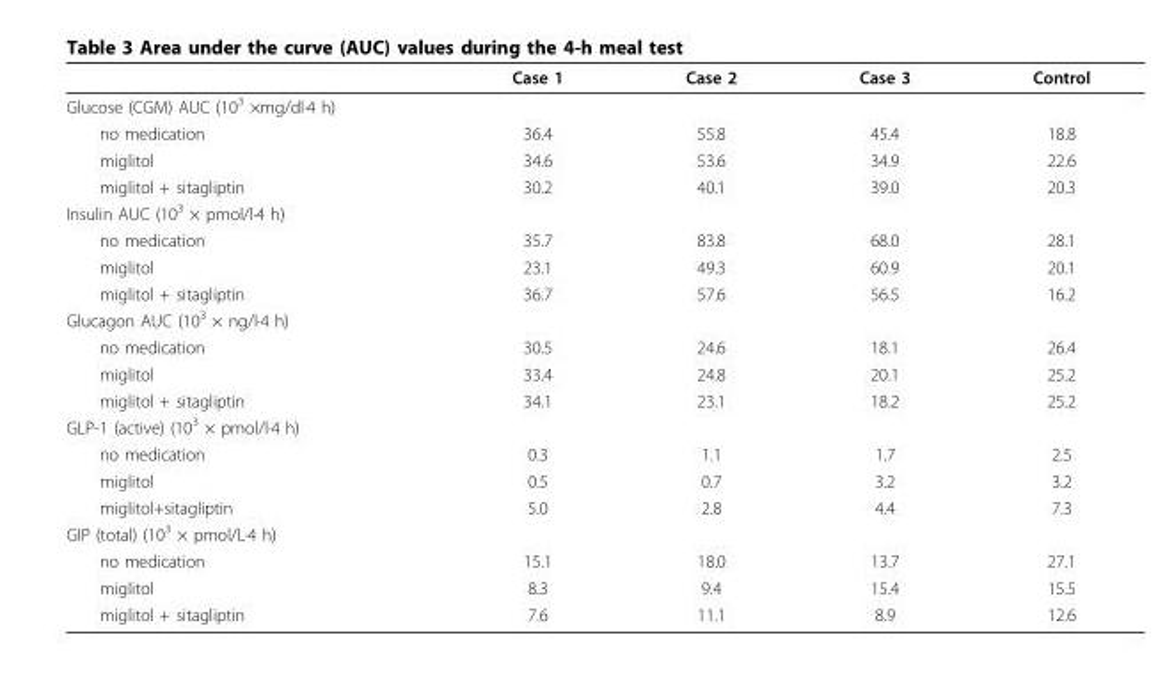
<table><thead><tr><td></td><td>Case 1</td><td>Case 2</td><td>Case 3</td><td>Control</td></tr></thead><tbody><tr><td colspan="5">Glucose (CGM) AUC (10<sup>3</sup> ×mg/dl·4 h)</td></tr><tr><td>no medication</td><td>36.4</td><td>55.8</td><td>45.4</td><td>18.8</td></tr><tr><td>miglitol</td><td>34.6</td><td>53.6</td><td>34.9</td><td>22.6</td></tr><tr><td>miglitol + sitagliptin</td><td>30.2</td><td>40.1</td><td>39.0</td><td>20.3</td></tr><tr><td colspan="5">Insulin AUC (10<sup>3</sup> × pmol/l·4 h)</td></tr><tr><td>no medication</td><td>35.7</td><td>83.8</td><td>68.0</td><td>28.1</td></tr><tr><td>miglitol</td><td>23.1</td><td>49.3</td><td>60.9</td><td>20.1</td></tr><tr><td>miglitol + sitagliptin</td><td>36.7</td><td>57.6</td><td>56.5</td><td>16.2</td></tr><tr><td colspan="5">Glucagon AUC (10<sup>3</sup> × ng/l·4 h)</td></tr><tr><td>no medication</td><td>30.5</td><td>24.6</td><td>18.1</td><td>26.4</td></tr><tr><td>miglitol</td><td>33.4</td><td>24.8</td><td>20.1</td><td>25.2</td></tr><tr><td>miglitol + sitagliptin</td><td>34.1</td><td>23.1</td><td>18.2</td><td>25.2</td></tr><tr><td colspan="5">GLP-1 (active) (10<sup>3</sup> × pmol/l·4 h)</td></tr><tr><td>no medication</td><td>0.3</td><td>1.1</td><td>1.7</td><td>2.5</td></tr><tr><td>miglitol</td><td>0.5</td><td>0.7</td><td>3.2</td><td>3.2</td></tr><tr><td>miglitol+sitagliptin</td><td>5.0</td><td>2.8</td><td>4.4</td><td>7.3</td></tr><tr><td colspan="5">GIP (total) (10<sup>3</sup> × pmol/L·4 h)</td></tr><tr><td>no medication</td><td>15.1</td><td>18.0</td><td>13.7</td><td>27.1</td></tr><tr><td>miglitol</td><td>8.3</td><td>9.4</td><td>15.4</td><td>15.5</td></tr><tr><td>miglitol + sitagliptin</td><td>7.6</td><td>11.1</td><td>8.9</td><td>12.6</td></tr></tbody></table>